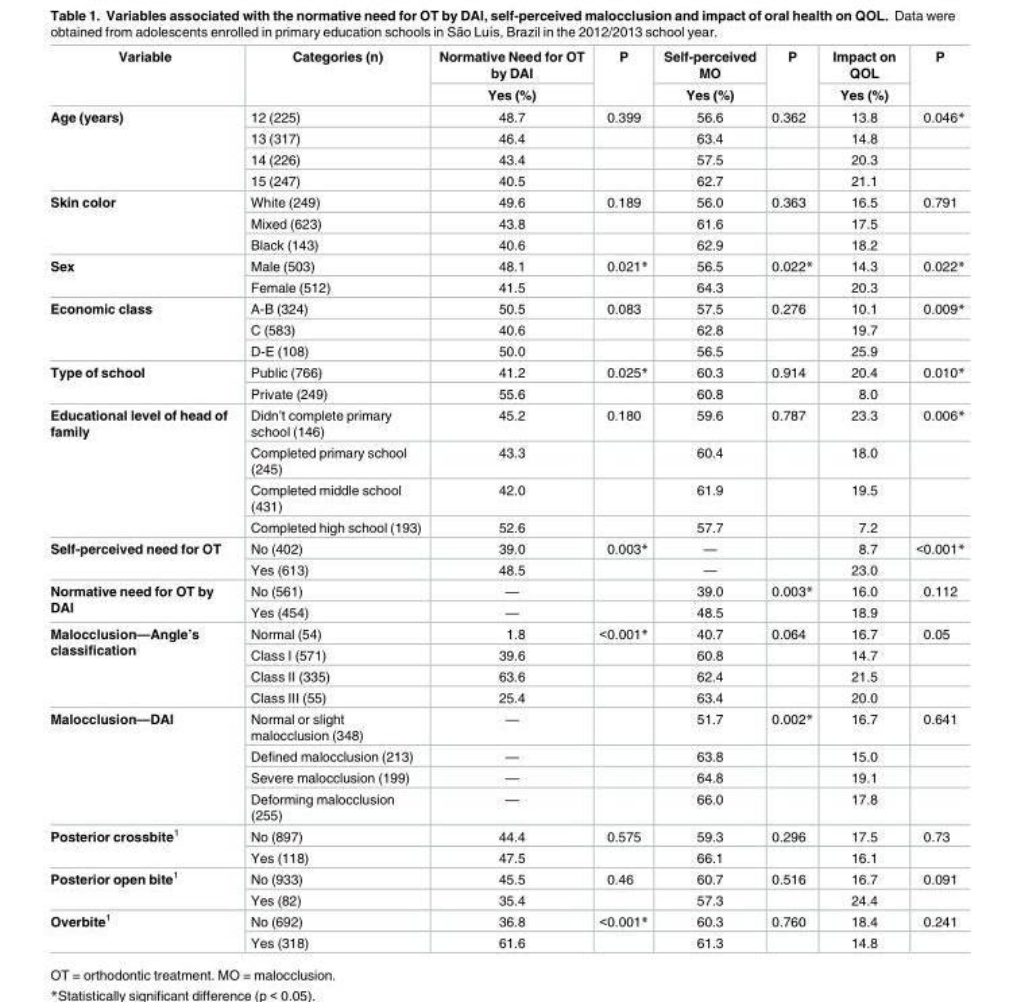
<table><thead><tr><td rowspan="2">Variable</td><td rowspan="2">Categories (n)</td><td rowspan="2">Normative Need for OT by DAI Yes (%)</td><td rowspan="2">P</td><td rowspan="2">Self-perceived MO Yes (%)</td><td rowspan="2">P</td><td rowspan="2">Impact on QOL Yes (%)</td><td rowspan="2">P</td></tr><tr></tr></thead><tbody><tr><td rowspan="4">Age (years)</td><td>12 (225)</td><td>48.7</td><td>0.399</td><td>56.6</td><td>0.362</td><td>13.8</td><td>0.046*</td></tr><tr><td>13 (317)</td><td>46.4</td><td></td><td>63.4</td><td></td><td>14.8</td><td></td></tr><tr><td>14 (226)</td><td>43.4</td><td></td><td>57.5</td><td></td><td>20.3</td><td></td></tr><tr><td>15 (247)</td><td>40.5</td><td></td><td>62.7</td><td></td><td>21.1</td><td></td></tr><tr><td rowspan="3">Skin color</td><td>White (249)</td><td>49.6</td><td>0.189</td><td>56.0</td><td>0.363</td><td>16.5</td><td>0.791</td></tr><tr><td>Mixed (623)</td><td>43.8</td><td></td><td>61.6</td><td></td><td>17.5</td><td></td></tr><tr><td>Black (143)</td><td>40.6</td><td></td><td>62.9</td><td></td><td>18.2</td><td></td></tr><tr><td rowspan="2">Sex</td><td>Male (503)</td><td>48.1</td><td>0.021*</td><td>56.5</td><td>0.022*</td><td>14.3</td><td>0.022*</td></tr><tr><td>Female (512)</td><td>41.5</td><td></td><td>64.3</td><td></td><td>20.3</td><td></td></tr><tr><td rowspan="3">Economic class</td><td>A-B (324)</td><td>50.5</td><td>0.083</td><td>57.5</td><td>0.276</td><td>10.1</td><td>0.009*</td></tr><tr><td>C (583)</td><td>40.6</td><td></td><td>62.8</td><td></td><td>19.7</td><td></td></tr><tr><td>D-E (108)</td><td>50.0</td><td></td><td>56.5</td><td></td><td>25.9</td><td></td></tr><tr><td rowspan="2">Type of school</td><td>Public (766)</td><td>41.2</td><td>0.025*</td><td>60.3</td><td>0.914</td><td>20.4</td><td>0.010*</td></tr><tr><td>Private (249)</td><td>55.6</td><td></td><td>60.8</td><td></td><td>8.0</td><td></td></tr><tr><td rowspan="4">Educational level of head of family</td><td>Didn’t complete primary school (146)</td><td>45.2</td><td>0.180</td><td>59.6</td><td>0.787</td><td>23.3</td><td>0.006*</td></tr><tr><td>Completed primary school (245)</td><td>43.3</td><td></td><td>60.4</td><td></td><td>18.0</td><td></td></tr><tr><td>Completed middle school (431)</td><td>42.0</td><td></td><td>61.9</td><td></td><td>19.5</td><td></td></tr><tr><td>Completed high school (193)</td><td>52.6</td><td></td><td>57.7</td><td></td><td>7.2</td><td></td></tr><tr><td rowspan="2">Self-perceived need for OT</td><td>No (402)</td><td>39.0</td><td>0.003*</td><td>—</td><td></td><td>8.7</td><td>&lt;0.001*</td></tr><tr><td>Yes (613)</td><td>48.5</td><td></td><td>—</td><td></td><td>23.0</td><td></td></tr><tr><td rowspan="2">Normative need for OT by DAI</td><td>No (561)</td><td>—</td><td></td><td>39.0</td><td>0.003*</td><td>16.0</td><td>0.112</td></tr><tr><td>Yes (454)</td><td>—</td><td></td><td>48.5</td><td></td><td>18.9</td><td></td></tr><tr><td rowspan="4">Malocclusion—Angle’s classification</td><td>Normal (54)</td><td>1.8</td><td>&lt;0.001*</td><td>40.7</td><td>0.064</td><td>16.7</td><td>0.05</td></tr><tr><td>Class I (571)</td><td>39.6</td><td></td><td>60.8</td><td></td><td>14.7</td><td></td></tr><tr><td>Class II (335)</td><td>63.6</td><td></td><td>62.4</td><td></td><td>21.5</td><td></td></tr><tr><td>Class III (55)</td><td>25.4</td><td></td><td>63.4</td><td></td><td>20.0</td><td></td></tr><tr><td rowspan="4">Malocclusion—DAI</td><td>Normal or slight malocclusion (348)</td><td>—</td><td></td><td>51.7</td><td>0.002*</td><td>16.7</td><td>0.641</td></tr><tr><td>Defined malocclusion (213)</td><td>—</td><td></td><td>63.8</td><td></td><td>15.0</td><td></td></tr><tr><td>Severe malocclusion (199)</td><td>—</td><td></td><td>64.8</td><td></td><td>19.1</td><td></td></tr><tr><td>Deforming malocclusion (255)</td><td>—</td><td></td><td>66.0</td><td></td><td>17.8</td><td></td></tr><tr><td rowspan="2">Posterior crossbite<sup>1</sup></td><td>No (897)</td><td>44.4</td><td>0.575</td><td>59.3</td><td>0.296</td><td>17.5</td><td>0.73</td></tr><tr><td>Yes (118)</td><td>47.5</td><td></td><td>66.1</td><td></td><td>16.1</td><td></td></tr><tr><td rowspan="2">Posterior open bite<sup>1</sup></td><td>No (933)</td><td>45.5</td><td>0.46</td><td>60.7</td><td>0.516</td><td>16.7</td><td>0.091</td></tr><tr><td>Yes (82)</td><td>35.4</td><td></td><td>57.3</td><td></td><td>24.4</td><td></td></tr><tr><td rowspan="2">Overbite<sup>1</sup></td><td>No (692)</td><td>36.8</td><td>&lt;0.001*</td><td>60.3</td><td>0.760</td><td>18.4</td><td>0.241</td></tr><tr><td>Yes (318)</td><td>61.6</td><td></td><td>61.3</td><td></td><td>14.8</td><td></td></tr></tbody></table>